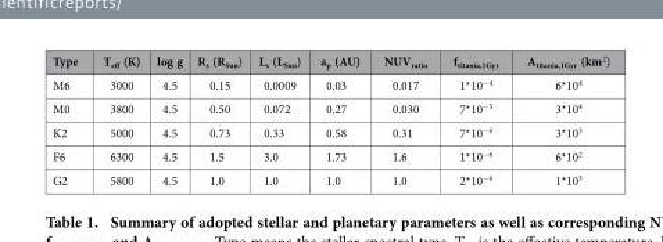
<table><thead><tr><td>Type</td><td>T<sub>eff</sub> (K)</td><td>log g</td><td>R<sub>s</sub> (R<sub>Sun</sub>)</td><td>L<sub>s</sub> (L<sub>Sun</sub>)</td><td>a<sub>p</sub> (AU)</td><td>NUV<sub>ratio</sub></td><td>f<sub>titania,1Gyr</sub></td><td>A<sub>titania,1Gyr</sub> (km<sup>2</sup>)</td></tr></thead><tbody><tr><td>M6</td><td>3000</td><td>4.5</td><td>0.15</td><td>0.0009</td><td>0.03</td><td>0.017</td><td>1*10<sup>−4</sup></td><td>6*10<sup>4</sup></td></tr><tr><td>M0</td><td>3800</td><td>4.5</td><td>0.50</td><td>0.072</td><td>0.27</td><td>0.030</td><td>7*10<sup>−5</sup></td><td>3*10<sup>4</sup></td></tr><tr><td>K2</td><td>5000</td><td>4.5</td><td>0.73</td><td>0.33</td><td>0.58</td><td>0.31</td><td>7*10<sup>−6</sup></td><td>3*10<sup>3</sup></td></tr><tr><td>F6</td><td>6300</td><td>4.5</td><td>1.5</td><td>3.0</td><td>1.73</td><td>1.6</td><td>1*10<sup>−6</sup></td><td>6*10<sup>2</sup></td></tr><tr><td>G2</td><td>5800</td><td>4.5</td><td>1.0</td><td>1.0</td><td>1.0</td><td>1.0</td><td>2*10<sup>−6</sup></td><td>1*10<sup>3</sup></td></tr></tbody></table>